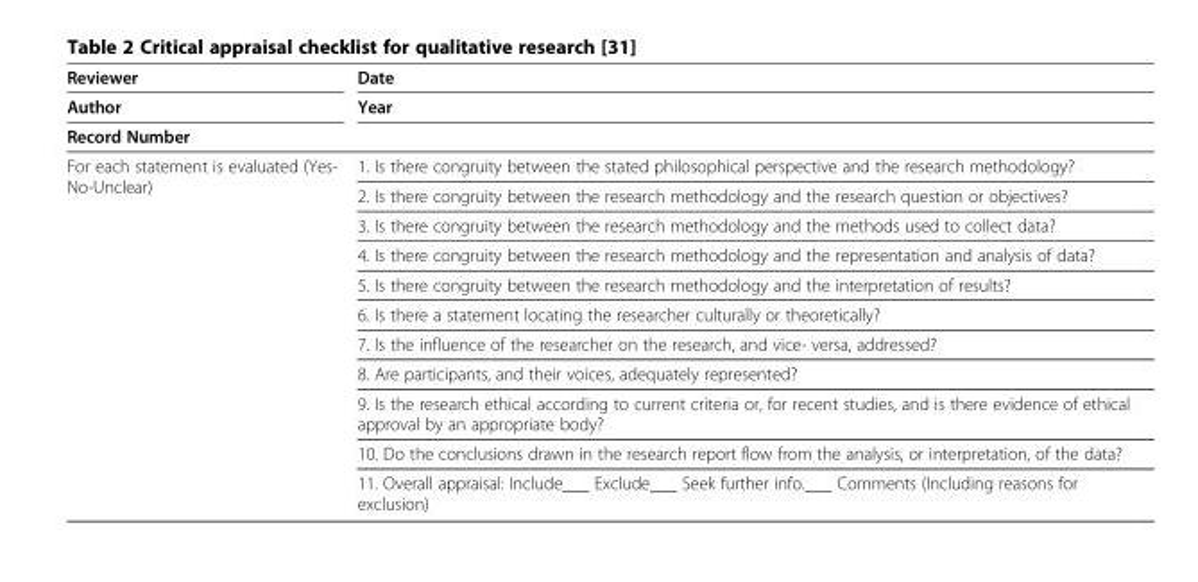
<table><thead><tr><td rowspan="3">Reviewer Author Record Number</td><td rowspan="3">Date Year</td></tr><tr></tr><tr></tr></thead><tbody><tr><td rowspan="11">For each statement is evaluated (Yes- No-Unclear)</td><td>1. Is there congruity between the stated philosophical perspective and the research methodology?</td></tr><tr><td>2. Is there congruity between the research methodology and the research question or objectives?</td></tr><tr><td>3. Is there congruity between the research methodology and the methods used to collect data?</td></tr><tr><td>4. Is there congruity between the research methodology and the representation and analysis of data?</td></tr><tr><td>5. Is there congruity between the research methodology and the interpretation of results?</td></tr><tr><td>6. Is there a statement locating the researcher culturally or theoretically?</td></tr><tr><td>7. Is the influence of the researcher on the research, and vice- versa, addressed?</td></tr><tr><td>8. Are participants, and their voices, adequately represented?</td></tr><tr><td>9. Is the research ethical according to current criteria or, for recent studies, and is there evidence of ethical approval by an appropriate body?</td></tr><tr><td>10. Do the conclusions drawn in the research report flow from the analysis, or interpretation, of the data?</td></tr><tr><td>11. Overall appraisal: Include___ Exclude___ Seek further info.___ Comments (Including reasons for exclusion)</td></tr></tbody></table>